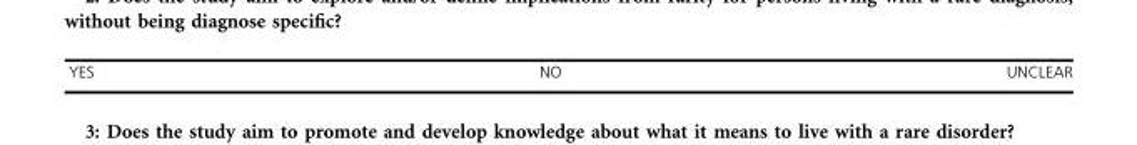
<table><tbody><tr><td>⁭YES</td><td>NO</td><td>UNCLEAR</td></tr></tbody></table>